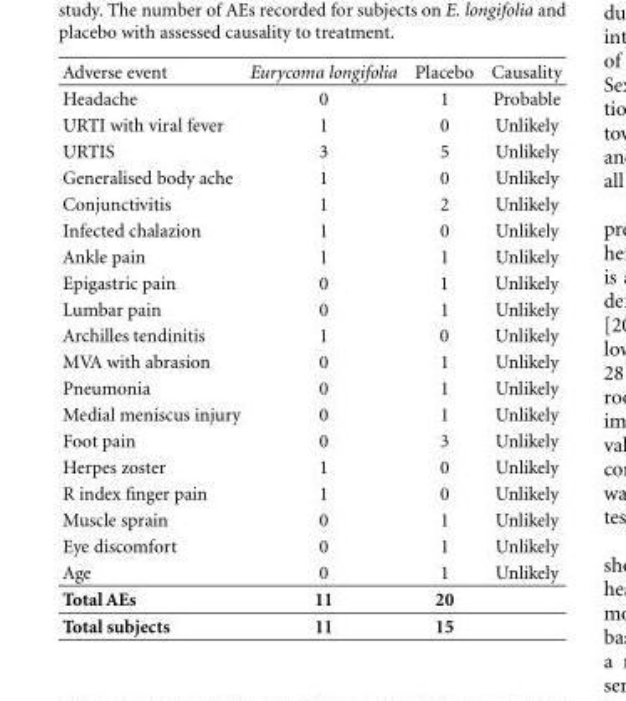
<table><thead><tr><td>Adverse event</td><td>Eurycoma longifolia</td><td>Placebo</td><td>Causality</td></tr></thead><tbody><tr><td>Headache</td><td>0</td><td>1</td><td>Probable</td></tr><tr><td>URTI with viral fever</td><td>1</td><td>0</td><td>Unlikely</td></tr><tr><td>URTIS</td><td>3</td><td>5</td><td>Unlikely</td></tr><tr><td>Generalised body ache</td><td>1</td><td>0</td><td>Unlikely</td></tr><tr><td>Conjunctivitis</td><td>1</td><td>2</td><td>Unlikely</td></tr><tr><td>Infected chalazion</td><td>1</td><td>0</td><td>Unlikely</td></tr><tr><td>Ankle pain</td><td>1</td><td>1</td><td>Unlikely</td></tr><tr><td>Epigastric pain</td><td>0</td><td>1</td><td>Unlikely</td></tr><tr><td>Lumbar pain</td><td>0</td><td>1</td><td>Unlikely</td></tr><tr><td>Archilles tendinitis</td><td>1</td><td>0</td><td>Unlikely</td></tr><tr><td>MVA with abrasion</td><td>0</td><td>1</td><td>Unlikely</td></tr><tr><td>Pneumonia</td><td>0</td><td>1</td><td>Unlikely</td></tr><tr><td>Medial meniscus injury</td><td>0</td><td>1</td><td>Unlikely</td></tr><tr><td>Foot pain</td><td>0</td><td>3</td><td>Unlikely</td></tr><tr><td>Herpes zoster</td><td>1</td><td>0</td><td>Unlikely</td></tr><tr><td>R index finger pain</td><td>1</td><td>0</td><td>Unlikely</td></tr><tr><td>Muscle sprain</td><td>0</td><td>1</td><td>Unlikely</td></tr><tr><td>Eye discomfort</td><td>0</td><td>1</td><td>Unlikely</td></tr><tr><td>Age</td><td>0</td><td>1</td><td>Unlikely</td></tr><tr><td>Total AEs</td><td>11</td><td>20</td><td></td></tr><tr><td>Total subjects</td><td>11</td><td>15</td><td></td></tr></tbody></table>